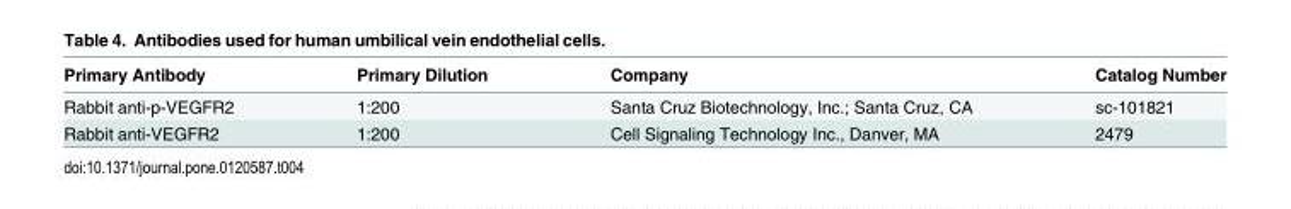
<table><thead><tr><td>Primary Antibody</td><td>Primary Dilution</td><td>Company</td><td>Catalog Number</td></tr></thead><tbody><tr><td>Rabbit anti-p-VEGFR2</td><td>1:200</td><td>Santa Cruz Biotechnology, Inc.; Santa Cruz, CA</td><td>sc-101821</td></tr><tr><td>Rabbit anti-VEGFR2</td><td>1:200</td><td>Cell Signaling Technology Inc., Danver, MA</td><td>2479</td></tr></tbody></table>